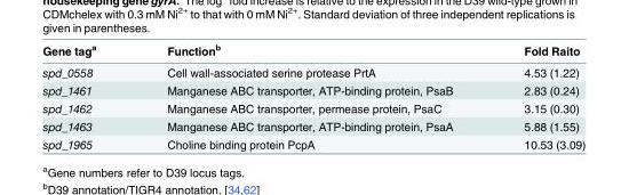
<table><thead><tr><td>Gene tag<sup>a</sup></td><td>Function<sup>b</sup></td><td>Fold Raito</td></tr></thead><tbody><tr><td>spd_0558</td><td>Cell wall-associated serine protease PrtA</td><td>4.53 (1.22)</td></tr><tr><td>spd_1461</td><td>Manganese ABC transporter, ATP-binding protein, PsaB</td><td>2.83 (0.24)</td></tr><tr><td>spd_1462</td><td>Manganese ABC transporter, permease protein, PsaC</td><td>3.15 (0.30)</td></tr><tr><td>spd_1463</td><td>Manganese ABC transporter, ATP-binding protein, PsaA</td><td>5.88 (1.55)</td></tr><tr><td>spd_1965</td><td>Choline binding protein PcpA</td><td>10.53 (3.09)</td></tr></tbody></table>